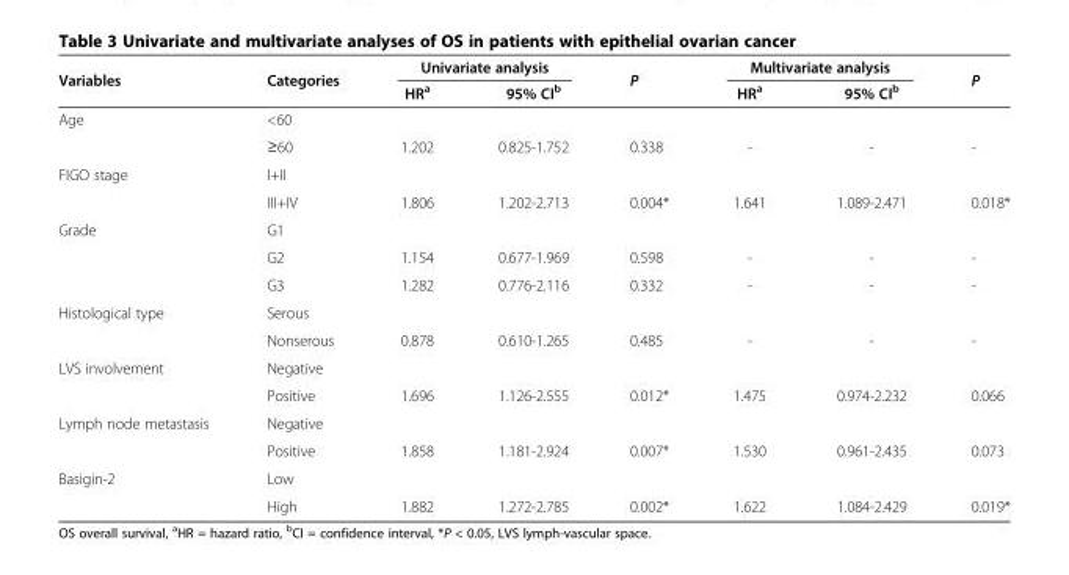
<table><thead><tr><td rowspan="2">Variables</td><td rowspan="2">Categories</td><td colspan="2">Univariate analysis</td><td rowspan="2">P</td><td colspan="2">Multivariate analysis</td><td rowspan="2">P</td></tr><tr><td>HR<sup>a</sup></td><td>95% CI<sup>b</sup></td><td>HR<sup>a</sup></td><td>95% CI<sup>b</sup></td></tr></thead><tbody><tr><td rowspan="2">Age</td><td>&lt;60</td><td></td><td></td><td></td><td></td><td></td><td></td></tr><tr><td>≥60</td><td>1.202</td><td>0.825-1.752</td><td>0.338</td><td>-</td><td>-</td><td>-</td></tr><tr><td rowspan="2">FIGO stage</td><td>I+II</td><td></td><td></td><td></td><td></td><td></td><td></td></tr><tr><td>III+IV</td><td>1.806</td><td>1.202-2.713</td><td>0.004*</td><td>1.641</td><td>1.089-2.471</td><td>0.018*</td></tr><tr><td rowspan="3">Grade</td><td>G1</td><td></td><td></td><td></td><td></td><td></td><td></td></tr><tr><td>G2</td><td>1.154</td><td>0.677-1.969</td><td>0.598</td><td>-</td><td>-</td><td>-</td></tr><tr><td>G3</td><td>1.282</td><td>0.776-2.116</td><td>0.332</td><td>-</td><td>-</td><td>-</td></tr><tr><td rowspan="2">Histological type</td><td>Serous</td><td></td><td></td><td></td><td></td><td></td><td></td></tr><tr><td>Nonserous</td><td>0.878</td><td>0.610-1.265</td><td>0.485</td><td>-</td><td>-</td><td>-</td></tr><tr><td rowspan="2">LVS involvement</td><td>Negative</td><td></td><td></td><td></td><td></td><td></td><td></td></tr><tr><td>Positive</td><td>1.696</td><td>1.126-2.555</td><td>0.012*</td><td>1.475</td><td>0.974-2.232</td><td>0.066</td></tr><tr><td rowspan="2">Lymph node metastasis</td><td>Negative</td><td></td><td></td><td></td><td></td><td></td><td></td></tr><tr><td>Positive</td><td>1.858</td><td>1.181-2.924</td><td>0.007*</td><td>1.530</td><td>0.961-2.435</td><td>0.073</td></tr><tr><td rowspan="2">Basigin-2</td><td>Low</td><td></td><td></td><td></td><td></td><td></td><td></td></tr><tr><td>High</td><td>1.882</td><td>1.272-2.785</td><td>0.002*</td><td>1.622</td><td>1.084-2.429</td><td>0.019*</td></tr></tbody></table>